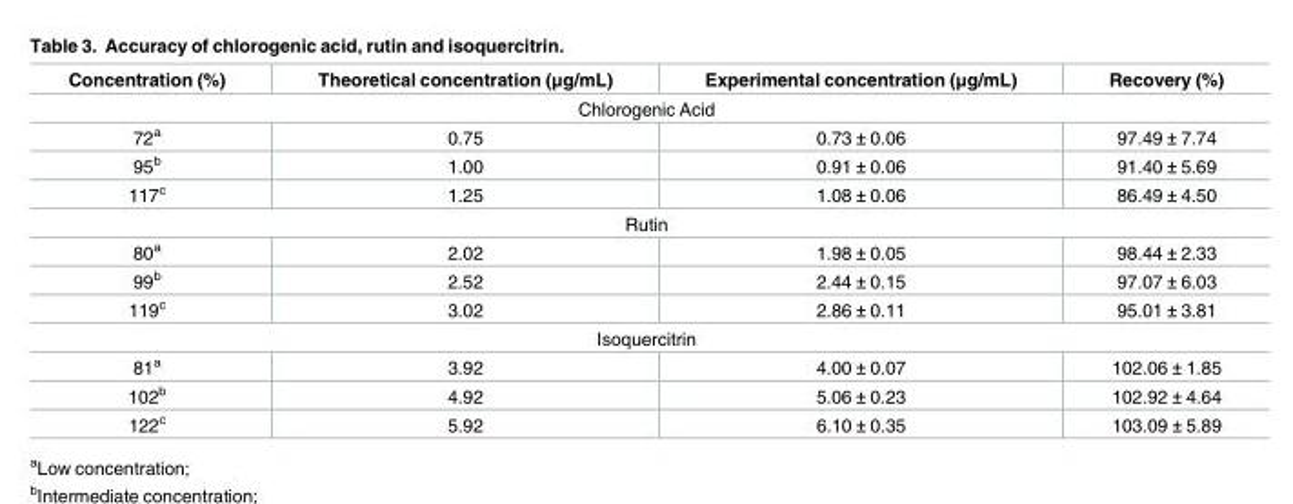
<table><thead><tr><td>Concentration (%)</td><td>Theoretical concentration (μg/mL)</td><td>Experimental concentration (μg/mL)</td><td>Recovery (%)</td></tr></thead><tbody><tr><td colspan="4">Chlorogenic Acid</td></tr><tr><td>72<sup>a</sup></td><td>0.75</td><td>0.73 ± 0.06</td><td>97.49 ± 7.74</td></tr><tr><td>95<sup>b</sup></td><td>1.00</td><td>0.91 ± 0.06</td><td>91.40 ± 5.69</td></tr><tr><td>117<sup>c</sup></td><td>1.25</td><td>1.08 ± 0.06</td><td>86.49 ± 4.50</td></tr><tr><td colspan="4">Rutin</td></tr><tr><td>80<sup>a</sup></td><td>2.02</td><td>1.98 ± 0.05</td><td>98.44 ± 2.33</td></tr><tr><td>99<sup>b</sup></td><td>2.52</td><td>2.44 ± 0.15</td><td>97.07 ± 6.03</td></tr><tr><td>119<sup>c</sup></td><td>3.02</td><td>2.86 ± 0.11</td><td>95.01 ± 3.81</td></tr><tr><td colspan="4">Isoquercitrin</td></tr><tr><td>81<sup>a</sup></td><td>3.92</td><td>4.00 ± 0.07</td><td>102.06 ± 1.85</td></tr><tr><td>102<sup>b</sup></td><td>4.92</td><td>5.06 ± 0.23</td><td>102.92 ± 4.64</td></tr><tr><td>122<sup>c</sup></td><td>5.92</td><td>6.10 ± 0.35</td><td>103.09 ± 5.89</td></tr></tbody></table>